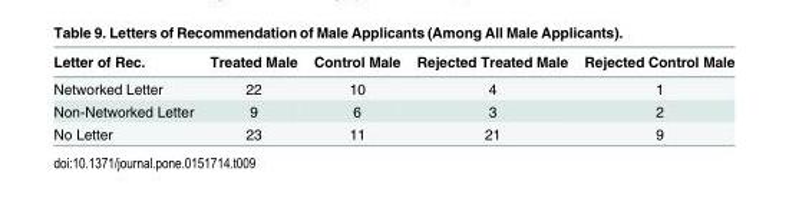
<table><thead><tr><td>Letter of Rec.</td><td>Treated Male</td><td>Control Male</td><td>Rejected Treated Male</td><td>Rejected Control Male</td></tr></thead><tbody><tr><td>Networked Letter</td><td>22</td><td>10</td><td>4</td><td>1</td></tr><tr><td>Non-Networked Letter</td><td>9</td><td>6</td><td>3</td><td>2</td></tr><tr><td>No Letter</td><td>23</td><td>11</td><td>21</td><td>9</td></tr></tbody></table>